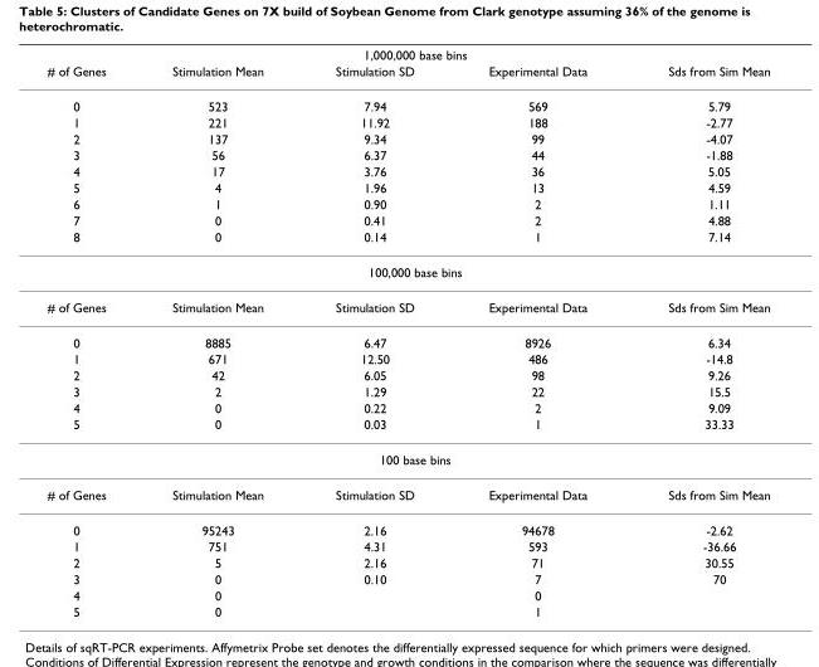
<table><thead><tr><td colspan="5">1,000,000 base bins</td></tr><tr><td># of Genes</td><td>Stimulation Mean</td><td>Stimulation SD</td><td>Experimental Data</td><td>Sds from Sim Mean</td></tr></thead><tbody><tr><td>0</td><td>523</td><td>7.94</td><td>569</td><td>5.79</td></tr><tr><td>1</td><td>221</td><td>11.92</td><td>188</td><td>-2.77</td></tr><tr><td>2</td><td>137</td><td>9.34</td><td>99</td><td>-4.07</td></tr><tr><td>3</td><td>56</td><td>6.37</td><td>44</td><td>-1.88</td></tr><tr><td>4</td><td>17</td><td>3.76</td><td>36</td><td>5.05</td></tr><tr><td>5</td><td>4</td><td>1.96</td><td>13</td><td>4.59</td></tr><tr><td>6</td><td>1</td><td>0.90</td><td>2</td><td>1.11</td></tr><tr><td>7</td><td>0</td><td>0.41</td><td>2</td><td>4.88</td></tr><tr><td>8</td><td>0</td><td>0.14</td><td>1</td><td>7.14</td></tr><tr><td colspan="5">100,000 base bins</td></tr><tr><td># of Genes</td><td>Stimulation Mean</td><td>Stimulation SD</td><td>Experimental Data</td><td>Sds from Sim Mean</td></tr><tr><td>0</td><td>8885</td><td>6.47</td><td>8926</td><td>6.34</td></tr><tr><td>1</td><td>671</td><td>12.50</td><td>486</td><td>-14.8</td></tr><tr><td>2</td><td>42</td><td>6.05</td><td>98</td><td>9.26</td></tr><tr><td>3</td><td>2</td><td>1.29</td><td>22</td><td>15.5</td></tr><tr><td>4</td><td>0</td><td>0.22</td><td>2</td><td>9.09</td></tr><tr><td>5</td><td>0</td><td>0.03</td><td>1</td><td>33.33</td></tr><tr><td colspan="5">100 base bins</td></tr><tr><td># of Genes</td><td>Stimulation Mean</td><td>Stimulation SD</td><td>Experimental Data</td><td>Sds from Sim Mean</td></tr><tr><td>0</td><td>95243</td><td>2.16</td><td>94678</td><td>-2.62</td></tr><tr><td>1</td><td>751</td><td>4.31</td><td>593</td><td>-36.66</td></tr><tr><td>2</td><td>5</td><td>2.16</td><td>71</td><td>30.55</td></tr><tr><td>3</td><td>0</td><td>0.10</td><td>7</td><td>70</td></tr><tr><td>4</td><td>0</td><td></td><td>0</td><td></td></tr><tr><td>5</td><td>0</td><td></td><td>1</td><td></td></tr></tbody></table>